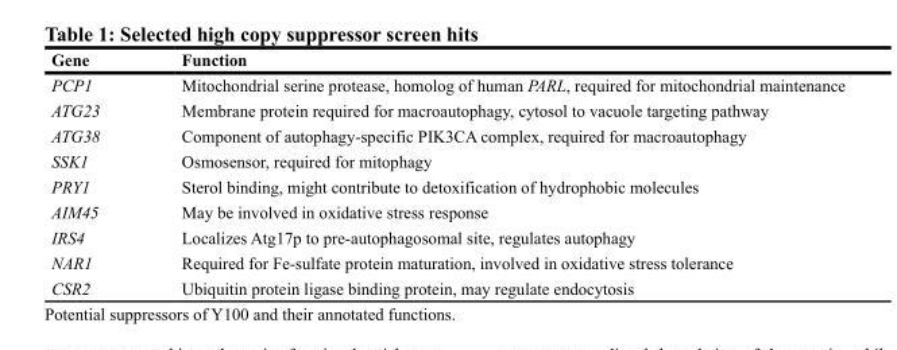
<table><thead><tr><td>Gene</td><td>Function</td></tr></thead><tbody><tr><td>PCP1</td><td>Mitochondrial serine protease, homolog of human PARL, required for mitochondrial maintenance</td></tr><tr><td>ATG23</td><td>Membrane protein required for macroautophagy, cytosol to vacuole targeting pathway</td></tr><tr><td>ATG38</td><td>Component of autophagy-specific PIK3CA complex, required for macroautophagy</td></tr><tr><td>SSK1</td><td>Osmosensor, required for mitophagy</td></tr><tr><td>PRY1</td><td>Sterol binding, might contribute to detoxification of hydrophobic molecules</td></tr><tr><td>AIM45</td><td>May be involved in oxidative stress response</td></tr><tr><td>IRS4</td><td>Localizes Atg17p to pre-autophagosomal site, regulates autophagy</td></tr><tr><td>NAR1</td><td>Required for Fe-sulfate protein maturation, involved in oxidative stress tolerance</td></tr><tr><td>CSR2</td><td>Ubiquitin protein ligase binding protein, may regulate endocytosis</td></tr></tbody></table>